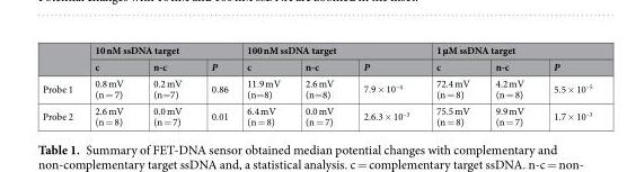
<table><thead><tr><td rowspan="2"></td><td colspan="3">10 nM ssDNA target</td><td colspan="3">100 nM ssDNA target</td><td colspan="3">1 µM ssDNA target</td></tr><tr><td>c</td><td>n-c</td><td>P</td><td>c</td><td>n-c</td><td>P</td><td>c</td><td>n-c</td><td>P</td></tr></thead><tbody><tr><td>Probe 1</td><td>0.8 mV (n = 7)</td><td>0.2 mV (n=7)</td><td>0.86</td><td>11.9 mV (n=8)</td><td>2.6 mV (n=8)</td><td>7.9 × 10<sup>–4</sup></td><td>72.4 mV (n = 8)</td><td>4.2 mV (n = 8)</td><td>5.5 × 10<sup>–5</sup></td></tr><tr><td>Probe 2</td><td>2.6 mV (n = 8)</td><td>0.0 mV (n = 7)</td><td>0.01</td><td>6.4 mV (n = 8)</td><td>0.0 mV (n = 7)</td><td>2.6.3 × 10<sup>–3</sup></td><td>75.5 mV (n = 8)</td><td>9.9 mV (n = 7)</td><td>1.7 × 10<sup>–3</sup></td></tr></tbody></table>